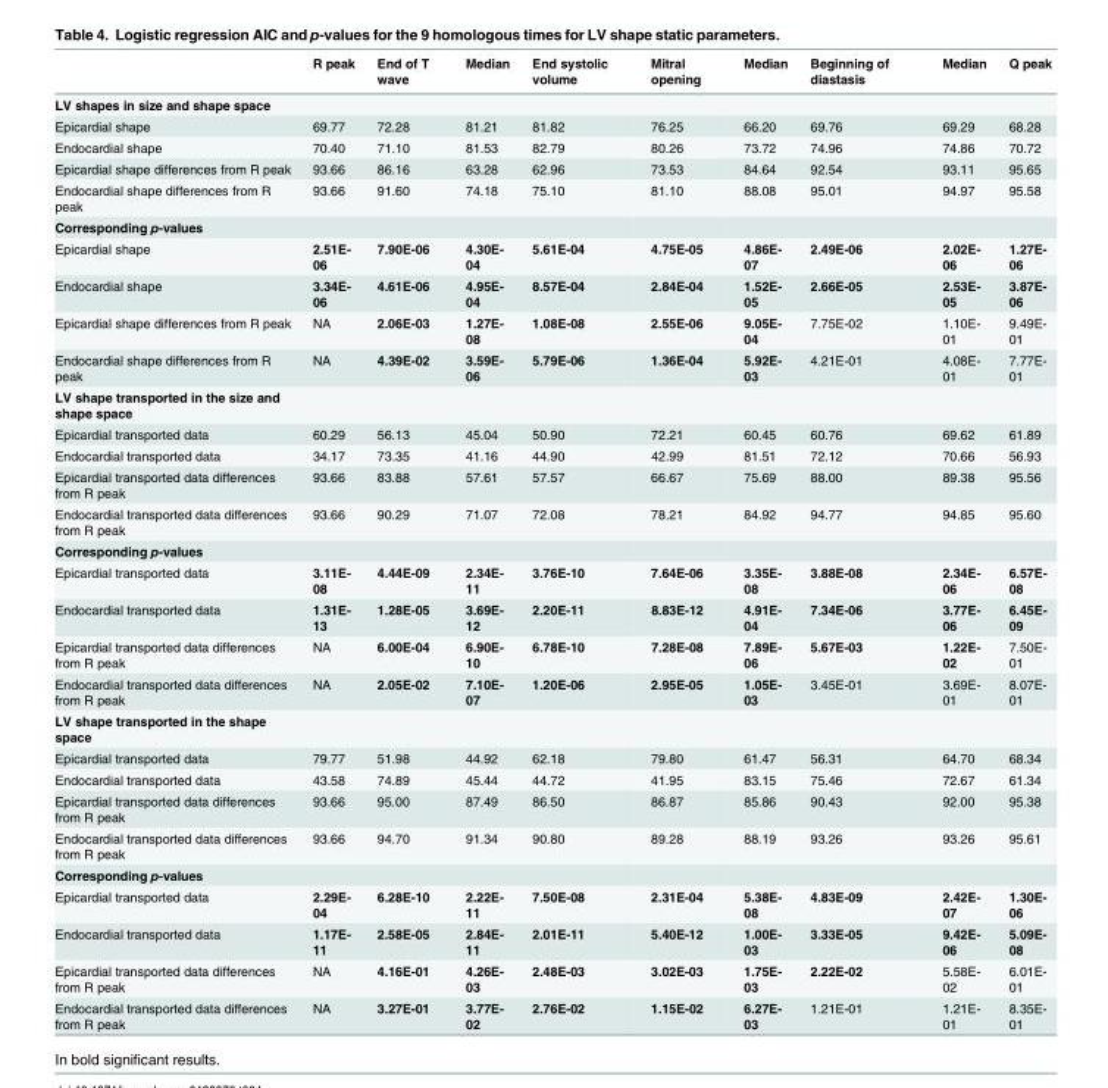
<table><thead><tr><td></td><td>R peak</td><td>End of T wave</td><td>Median</td><td>End systolic volume</td><td>Mitral opening</td><td>Median</td><td>Beginning of diastasis</td><td>Median</td><td>Q peak</td></tr></thead><tbody><tr><td colspan="10">LV shapes in size and shape space</td></tr><tr><td>Epicardial shape</td><td>69.77</td><td>72.28</td><td>81.21</td><td>81.82</td><td>76.25</td><td>66.20</td><td>69.76</td><td>69.29</td><td>68.28</td></tr><tr><td>Endocardial shape</td><td>70.40</td><td>71.10</td><td>81.53</td><td>82.79</td><td>80.26</td><td>73.72</td><td>74.96</td><td>74.86</td><td>70.72</td></tr><tr><td>Epicardial shape differences from R peak</td><td>93.66</td><td>86.16</td><td>63.28</td><td>62.96</td><td>73.53</td><td>84.64</td><td>92.54</td><td>93.11</td><td>95.65</td></tr><tr><td>Endocardial shape differences from R peak</td><td>93.66</td><td>91.60</td><td>74.18</td><td>75.10</td><td>81.10</td><td>88.08</td><td>95.01</td><td>94.97</td><td>95.58</td></tr><tr><td colspan="10">Corresponding p-values</td></tr><tr><td>Epicardial shape</td><td>2.51E- 06</td><td>7.90E-06</td><td>4.30E- 04</td><td>5.61E-04</td><td>4.75E-05</td><td>4.86E- 07</td><td>2.49E-06</td><td>2.02E- 06</td><td>1.27E- 06</td></tr><tr><td>Endocardial shape</td><td>3.34E- 06</td><td>4.61E-06</td><td>4.95E- 04</td><td>8.57E-04</td><td>2.84E-04</td><td>1.52E- 05</td><td>2.66E-05</td><td>2.53E- 05</td><td>3.87E- 06</td></tr><tr><td>Epicardial shape differences from R peak</td><td>NA</td><td>2.06E-03</td><td>1.27E- 08</td><td>1.08E-08</td><td>2.55E-06</td><td>9.05E- 04</td><td>7.75E-02</td><td>1.10E- 01</td><td>9.49E- 01</td></tr><tr><td>Endocardial shape differences from R peak</td><td>NA</td><td>4.39E-02</td><td>3.59E- 06</td><td>5.79E-06</td><td>1.36E-04</td><td>5.92E- 03</td><td>4.21E-01</td><td>4.08E- 01</td><td>7.77E- 01</td></tr><tr><td colspan="10">LV shape transported in the size and shape space</td></tr><tr><td>Epicardial transported data</td><td>60.29</td><td>56.13</td><td>45.04</td><td>50.90</td><td>72.21</td><td>60.45</td><td>60.76</td><td>69.62</td><td>61.89</td></tr><tr><td>Endocardial transported data</td><td>34.17</td><td>73.35</td><td>41.16</td><td>44.90</td><td>42.99</td><td>81.51</td><td>72.12</td><td>70.66</td><td>56.93</td></tr><tr><td>Epicardial transported data differences from R peak</td><td>93.66</td><td>83.88</td><td>57.61</td><td>57.57</td><td>66.67</td><td>75.69</td><td>88.00</td><td>89.38</td><td>95.56</td></tr><tr><td>Endocardial transported data differences from R peak</td><td>93.66</td><td>90.29</td><td>71.07</td><td>72.08</td><td>78.21</td><td>84.92</td><td>94.77</td><td>94.85</td><td>95.60</td></tr><tr><td colspan="10">Corresponding p-values</td></tr><tr><td>Epicardial transported data</td><td>3.11E- 08</td><td>4.44E-09</td><td>2.34E- 11</td><td>3.76E-10</td><td>7.64E-06</td><td>3.35E- 08</td><td>3.88E-08</td><td>2.34E- 06</td><td>6.57E- 08</td></tr><tr><td>Endocardial transported data</td><td>1.31E- 13</td><td>1.28E-05</td><td>3.69E- 12</td><td>2.20E-11</td><td>8.83E-12</td><td>4.91E- 04</td><td>7.34E-06</td><td>3.77E- 06</td><td>6.45E- 09</td></tr><tr><td>Epicardial transported data differences from R peak</td><td>NA</td><td>6.00E-04</td><td>6.90E- 10</td><td>6.78E-10</td><td>7.28E-08</td><td>7.89E- 06</td><td>5.67E-03</td><td>1.22E- 02</td><td>7.50E- 01</td></tr><tr><td>Endocardial transported data differences from R peak</td><td>NA</td><td>2.05E-02</td><td>7.10E- 07</td><td>1.20E-06</td><td>2.95E-05</td><td>1.05E- 03</td><td>3.45E-01</td><td>3.69E- 01</td><td>8.07E- 01</td></tr><tr><td colspan="10">LV shape transported in the shape space</td></tr><tr><td>Epicardial transported data</td><td>79.77</td><td>51.98</td><td>44.92</td><td>62.18</td><td>79.80</td><td>61.47</td><td>56.31</td><td>64.70</td><td>68.34</td></tr><tr><td>Endocardial transported data</td><td>43.58</td><td>74.89</td><td>45.44</td><td>44.72</td><td>41.95</td><td>83.15</td><td>75.46</td><td>72.67</td><td>61.34</td></tr><tr><td>Epicardial transported data differences from R peak</td><td>93.66</td><td>95.00</td><td>87.49</td><td>86.50</td><td>86.87</td><td>85.86</td><td>90.43</td><td>92.00</td><td>95.38</td></tr><tr><td>Endocardial transported data differences from R peak</td><td>93.66</td><td>94.70</td><td>91.34</td><td>90.80</td><td>89.28</td><td>88.19</td><td>93.26</td><td>93.26</td><td>95.61</td></tr><tr><td colspan="10">Corresponding p-values</td></tr><tr><td>Epicardial transported data</td><td>2.29E- 04</td><td>6.28E-10</td><td>2.22E- 11</td><td>7.50E-08</td><td>2.31E-04</td><td>5.38E- 08</td><td>4.83E-09</td><td>2.42E- 07</td><td>1.30E- 06</td></tr><tr><td>Endocardial transported data</td><td>1.17E- 11</td><td>2.58E-05</td><td>2.84E- 11</td><td>2.01E-11</td><td>5.40E-12</td><td>1.00E- 03</td><td>3.33E-05</td><td>9.42E- 06</td><td>5.09E- 08</td></tr><tr><td>Epicardial transported data differences from R peak</td><td>NA</td><td>4.16E-01</td><td>4.26E- 03</td><td>2.48E-03</td><td>3.02E-03</td><td>1.75E- 03</td><td>2.22E-02</td><td>5.58E- 02</td><td>6.01E- 01</td></tr><tr><td>Endocardial transported data differences from R peak</td><td>NA</td><td>3.27E-01</td><td>3.77E- 02</td><td>2.76E-02</td><td>1.15E-02</td><td>6.27E- 03</td><td>1.21E-01</td><td>1.21E- 01</td><td>8.35E- 01</td></tr></tbody></table>